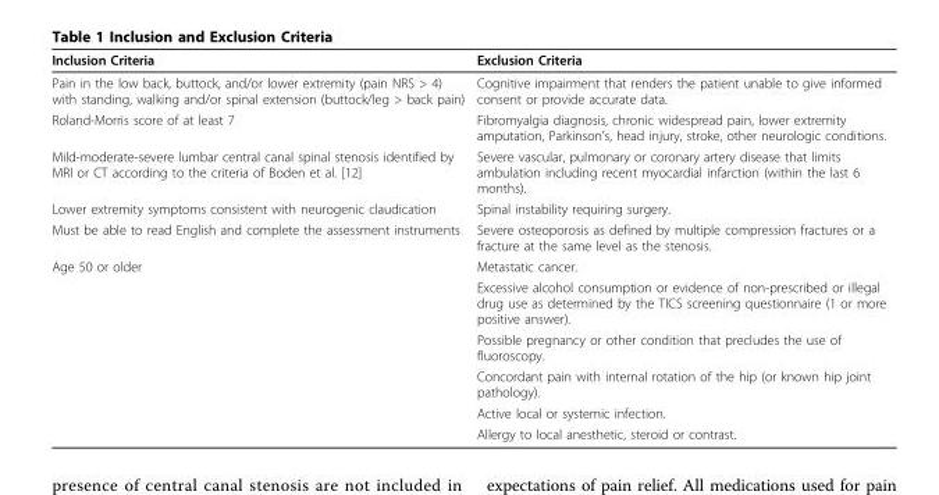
<table><thead><tr><td>Inclusion Criteria</td><td>Exclusion Criteria</td></tr></thead><tbody><tr><td>Pain in the low back, buttock, and/or lower extremity (pain NRS &gt; 4) with standing, walking and/or spinal extension (buttock/leg &gt; back pain)</td><td>Cognitive impairment that renders the patient unable to give informed consent or provide accurate data.</td></tr><tr><td>Roland-Morris score of at least 7</td><td>Fibromyalgia diagnosis, chronic widespread pain, lower extremity amputation, Parkinson’s, head injury, stroke, other neurologic conditions.</td></tr><tr><td>Mild-moderate-severe lumbar central canal spinal stenosis identified by MRI or CT according to the criteria of Boden et al. [12]</td><td>Severe vascular, pulmonary or coronary artery disease that limits ambulation including recent myocardial infarction (within the last 6 months).</td></tr><tr><td>Lower extremity symptoms consistent with neurogenic claudication</td><td>Spinal instability requiring surgery.</td></tr><tr><td>Must be able to read English and complete the assessment instruments</td><td>Severe osteoporosis as defined by multiple compression fractures or a fracture at the same level as the stenosis.</td></tr><tr><td rowspan="6">Age 50 or older</td><td>Metastatic cancer.</td></tr><tr><td>Excessive alcohol consumption or evidence of non-prescribed or illegal drug use as determined by the TICS screening questionnaire (1 or more positive answer).</td></tr><tr><td>Possible pregnancy or other condition that precludes the use of fluoroscopy.</td></tr><tr><td>Concordant pain with internal rotation of the hip (or known hip joint pathology).</td></tr><tr><td>Active local or systemic infection.</td></tr><tr><td>Allergy to local anesthetic, steroid or contrast.</td></tr></tbody></table>